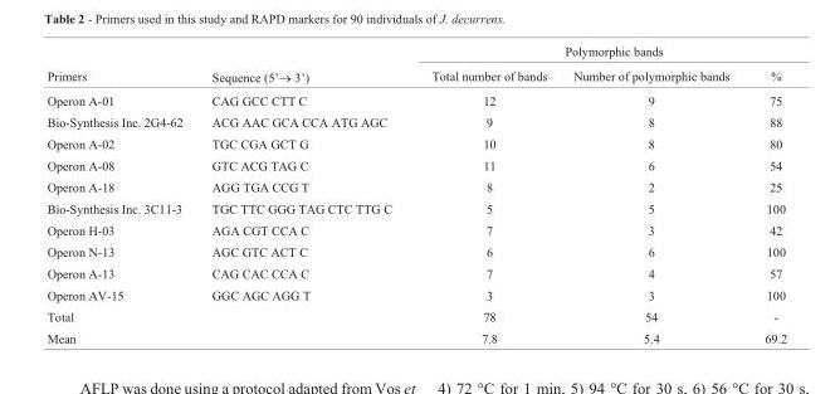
<table><thead><tr><td rowspan="2">Primers</td><td rowspan="2">Sequence (5’→ 3’)</td><td colspan="3">Polymorphic bands</td></tr><tr><td>Total number of bands</td><td>Number of polymorphic bands</td><td>%</td></tr></thead><tbody><tr><td>Operon A-01</td><td>CAG GCC CTT C</td><td>12</td><td>9</td><td>75</td></tr><tr><td>Bio-Synthesis Inc. 2G4-62</td><td>ACG AAC GCA CCA ATG AGC</td><td>9</td><td>8</td><td>88</td></tr><tr><td>Operon A-02</td><td>TGC CGA GCT G</td><td>10</td><td>8</td><td>80</td></tr><tr><td>Operon A-08</td><td>GTC ACG TAG C</td><td>11</td><td>6</td><td>54</td></tr><tr><td>Operon A-18</td><td>AGG TGA CCG T</td><td>8</td><td>2</td><td>25</td></tr><tr><td>Bio-Synthesis Inc. 3C11-3</td><td>TGC TTC GGG TAG CTC TTG C</td><td>5</td><td>5</td><td>100</td></tr><tr><td>Operon H-03</td><td>AGA CGT CCA C</td><td>7</td><td>3</td><td>42</td></tr><tr><td>Operon N-13</td><td>AGC GTC ACT C</td><td>6</td><td>6</td><td>100</td></tr><tr><td>Operon A-13</td><td>CAG CAC CCA C</td><td>7</td><td>4</td><td>57</td></tr><tr><td>Operon AV-15</td><td>GGC AGC AGG T</td><td>3</td><td>3</td><td>100</td></tr><tr><td>Total</td><td></td><td>78</td><td>54</td><td>-</td></tr><tr><td>Mean</td><td></td><td>7.8</td><td>5.4</td><td>69.2</td></tr></tbody></table>